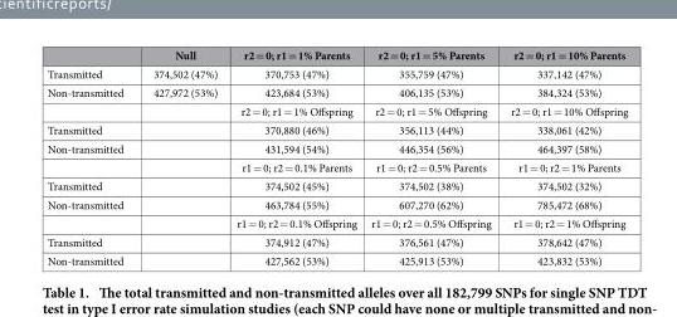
<table><thead><tr><td></td><td>Null</td><td>r2 = 0; r1 = 1% Parents</td><td>r2 = 0; r1 = 5% Parents</td><td>r2 = 0; r1 = 10% Parents</td></tr></thead><tbody><tr><td>Transmitted</td><td>374,502 (47%)</td><td>370,753 (47%)</td><td>355,759 (47%)</td><td>337,142 (47%)</td></tr><tr><td rowspan="2">Non-transmitted</td><td>427,972 (53%)</td><td>423,684 (53%)</td><td>406,135 (53%)</td><td>384,324 (53%)</td></tr><tr><td></td><td>r2 = 0; r1 = 1% Offspring</td><td>r2 = 0; r1 = 5% Offspring</td><td>r2 = 0; r1 = 10% Offspring</td></tr><tr><td>Transmitted</td><td></td><td>370,880 (46%)</td><td>356,113 (44%)</td><td>338,061 (42%)</td></tr><tr><td rowspan="2">Non-transmitted</td><td></td><td>431,594 (54%)</td><td>446,354 (56%)</td><td>464,397 (58%)</td></tr><tr><td></td><td>r1 = 0; r2 = 0.1% Parents</td><td>r1 = 0; r2 = 0.5% Parents</td><td>r1 = 0; r2 = 1% Parents</td></tr><tr><td>Transmitted</td><td></td><td>374,502 (45%)</td><td>374,502 (38%)</td><td>374,502 (32%)</td></tr><tr><td rowspan="2">Non-transmitted</td><td></td><td>463,784 (55%)</td><td>607,270 (62%)</td><td>785,472 (68%)</td></tr><tr><td></td><td>r1 = 0; r2 = 0.1% Offspring</td><td>r1 = 0; r2 = 0.5% Offspring</td><td>r1 = 0; r2 = 1% Offspring</td></tr><tr><td>Transmitted</td><td></td><td>374,912 (47%)</td><td>376,561 (47%)</td><td>378,642 (47%)</td></tr><tr><td>Non-transmitted</td><td></td><td>427,562 (53%)</td><td>425,913 (53%)</td><td>423,832 (53%)</td></tr></tbody></table>